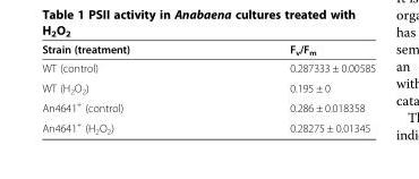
<table><thead><tr><td>Strain (treatment)</td><td>F<sub>v</sub>/F<sub>m</sub></td></tr></thead><tbody><tr><td>WT (control)</td><td>0.287333 ± 0.00585</td></tr><tr><td>WT (H<sub>2</sub>O<sub>2</sub>)</td><td>0.195 ± 0</td></tr><tr><td>An4641<sup>+</sup> (control)</td><td>0.286 ± 0.018358</td></tr><tr><td>An4641<sup>+</sup> (H<sub>2</sub>O<sub>2</sub>)</td><td>0.28275 ± 0.01345</td></tr></tbody></table>